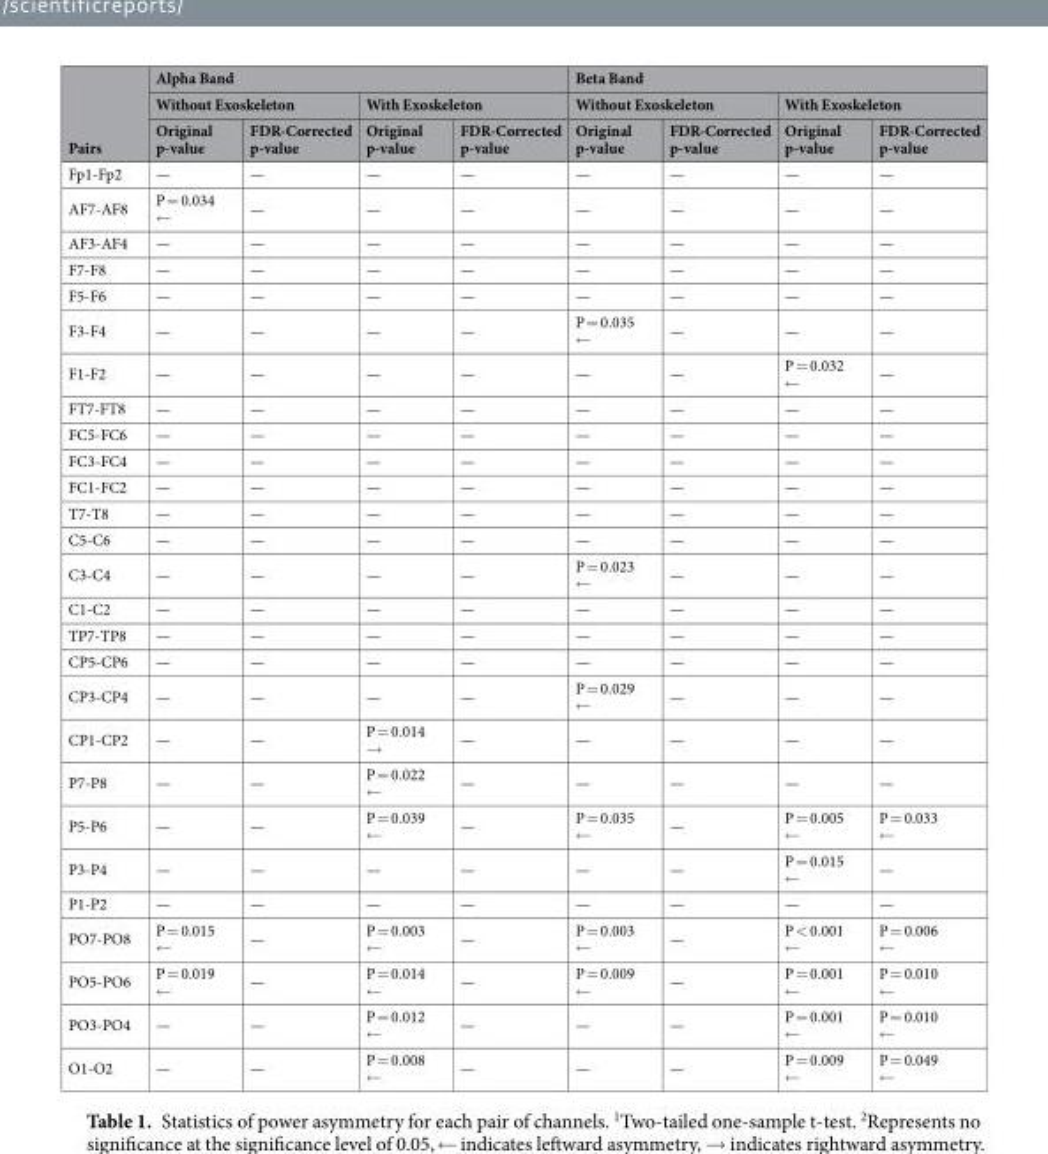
<table><thead><tr><td rowspan="3">Pairs</td><td colspan="4">Alpha Band</td><td colspan="4">Beta Band</td></tr><tr><td colspan="2">Without Exoskeleton</td><td colspan="2">With Exoskeleton</td><td colspan="2">Without Exoskeleton</td><td colspan="2">With Exoskeleton</td></tr><tr><td>Original p-value</td><td>FDR-Corrected p-value</td><td>Original p-value</td><td>FDR-Corrected p-value</td><td>Original p-value</td><td>FDR-Corrected p-value</td><td>Original p-value</td><td>FDR-Corrected p-value</td></tr></thead><tbody><tr><td>Fp1-Fp2</td><td>—</td><td>—</td><td>—</td><td>—</td><td>—</td><td>—</td><td>—</td><td>—</td></tr><tr><td>AF7-AF8</td><td>P = 0.034 ←</td><td>—</td><td>—</td><td>—</td><td>—</td><td>—</td><td>—</td><td>—</td></tr><tr><td>AF3-AF4</td><td>—</td><td>—</td><td>—</td><td>—</td><td>—</td><td>—</td><td>—</td><td>—</td></tr><tr><td>F7-F8</td><td>—</td><td>—</td><td>—</td><td>—</td><td>—</td><td>—</td><td>—</td><td>—</td></tr><tr><td>F5-F6</td><td>—</td><td>—</td><td>—</td><td>—</td><td>—</td><td>—</td><td>—</td><td>—</td></tr><tr><td>F3-F4</td><td>—</td><td>—</td><td>—</td><td>—</td><td>P = 0.035 ←</td><td>—</td><td>—</td><td>—</td></tr><tr><td>F1-F2</td><td>—</td><td>—</td><td>—</td><td>—</td><td>—</td><td>—</td><td>P = 0.032 ←</td><td>—</td></tr><tr><td>FT7-FT8</td><td>—</td><td>—</td><td>—</td><td>—</td><td>—</td><td>—</td><td>—</td><td>—</td></tr><tr><td>FC5-FC6</td><td>—</td><td>—</td><td>—</td><td>—</td><td>—</td><td>—</td><td>—</td><td>—</td></tr><tr><td>FC3-FC4</td><td>—</td><td>—</td><td>—</td><td>—</td><td>—</td><td>—</td><td>—</td><td>—</td></tr><tr><td>FC1-FC2</td><td>—</td><td>—</td><td>—</td><td>—</td><td>—</td><td>—</td><td>—</td><td>—</td></tr><tr><td>T7-T8</td><td>—</td><td>—</td><td>—</td><td>—</td><td>—</td><td>—</td><td>—</td><td>—</td></tr><tr><td>C5-C6</td><td>—</td><td>—</td><td>—</td><td>—</td><td>—</td><td>—</td><td>—</td><td>—</td></tr><tr><td>C3-C4</td><td>—</td><td>—</td><td>—</td><td>—</td><td>P = 0.023 ←</td><td>—</td><td>—</td><td>—</td></tr><tr><td>C1-C2</td><td>—</td><td>—</td><td>—</td><td>—</td><td>—</td><td>—</td><td>—</td><td>—</td></tr><tr><td>TP7-TP8</td><td>—</td><td>—</td><td>—</td><td>—</td><td>—</td><td>—</td><td>—</td><td>—</td></tr><tr><td>CP5-CP6</td><td>—</td><td>—</td><td>—</td><td>—</td><td>—</td><td>—</td><td>—</td><td>—</td></tr><tr><td>CP3-CP4</td><td>—</td><td>—</td><td>—</td><td>—</td><td>P = 0.029 ←</td><td>—</td><td>—</td><td>—</td></tr><tr><td>CP1-CP2</td><td>—</td><td>—</td><td>P = 0.014 →</td><td>—</td><td>—</td><td>—</td><td>—</td><td>—</td></tr><tr><td>P7-P8</td><td>—</td><td>—</td><td>P = 0.022 ←</td><td>—</td><td>—</td><td>—</td><td>—</td><td>—</td></tr><tr><td>P5-P6</td><td>—</td><td>—</td><td>P = 0.039 ←</td><td>—</td><td>P = 0.035 ←</td><td>—</td><td>P = 0.005 ←</td><td>P = 0.033 ←</td></tr><tr><td>P3-P4</td><td>—</td><td>—</td><td>—</td><td>—</td><td>—</td><td>—</td><td>P = 0.015 ←</td><td>—</td></tr><tr><td>P1-P2</td><td>—</td><td>—</td><td>—</td><td>—</td><td>—</td><td>—</td><td>—</td><td>—</td></tr><tr><td>PO7-PO8</td><td>P = 0.015 ←</td><td>—</td><td>P = 0.003 ←</td><td>—</td><td>P = 0.003 ←</td><td>—</td><td>P &lt; 0.001 ←</td><td>P = 0.006 ←</td></tr><tr><td>PO5-PO6</td><td>P = 0.019 ←</td><td>—</td><td>P = 0.014 ←</td><td>—</td><td>P = 0.009 ←</td><td>—</td><td>P = 0.001 ←</td><td>P = 0.010 ←</td></tr><tr><td>PO3-PO4</td><td>—</td><td>—</td><td>P = 0.012 ←</td><td>—</td><td>—</td><td>—</td><td>P = 0.001 ←</td><td>P = 0.010 ←</td></tr><tr><td>O1-O2</td><td>—</td><td>—</td><td>P = 0.008 ←</td><td>—</td><td>—</td><td>—</td><td>P = 0.009 ←</td><td>P = 0.049 ←</td></tr></tbody></table>